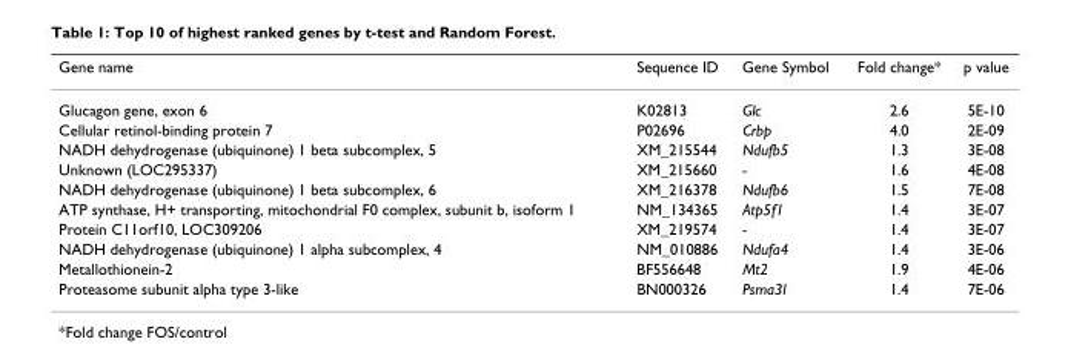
<table><thead><tr><td>Gene name</td><td>Sequence ID</td><td>Gene Symbol</td><td>Fold change*</td><td>p value</td></tr></thead><tbody><tr><td>Glucagon gene, exon 6</td><td>K02813</td><td>Glc</td><td>2.6</td><td>5E-10</td></tr><tr><td>Cellular retinol-binding protein 7</td><td>P02696</td><td>Crbp</td><td>4.0</td><td>2E-09</td></tr><tr><td>NADH dehydrogenase (ubiquinone) 1 beta subcomplex, 5</td><td>XM_215544</td><td>Ndufb5</td><td>1.3</td><td>3E-08</td></tr><tr><td>Unknown (LOC295337)</td><td>XM_215660</td><td>-</td><td>1.6</td><td>4E-08</td></tr><tr><td>NADH dehydrogenase (ubiquinone) 1 beta subcomplex, 6</td><td>XM_216378</td><td>Ndufb6</td><td>1.5</td><td>7E-08</td></tr><tr><td>ATP synthase, H+ transporting, mitochondrial F0 complex, subunit b, isoform 1</td><td>NM_134365</td><td>Atp5f1</td><td>1.4</td><td>3E-07</td></tr><tr><td>Protein C11orf10, LOC309206</td><td>XM_219574</td><td>-</td><td>1.4</td><td>3E-07</td></tr><tr><td>NADH dehydrogenase (ubiquinone) 1 alpha subcomplex, 4</td><td>NM_010886</td><td>Ndufa4</td><td>1.4</td><td>3E-06</td></tr><tr><td>Metallothionein-2</td><td>BF556648</td><td>Mt2</td><td>1.9</td><td>4E-06</td></tr><tr><td>Proteasome subunit alpha type 3-like</td><td>BN000326</td><td>Psma3l</td><td>1.4</td><td>7E-06</td></tr></tbody></table>